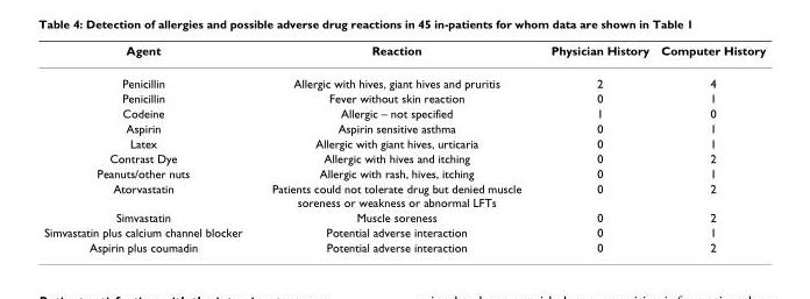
<table><thead><tr><td>Agent</td><td>Reaction</td><td>Physician History</td><td>Computer History</td></tr></thead><tbody><tr><td>Penicillin</td><td>Allergic with hives, giant hives and pruritis</td><td>2</td><td>4</td></tr><tr><td>Penicillin</td><td>Fever without skin reaction</td><td>0</td><td>1</td></tr><tr><td>Codeine</td><td>Allergic – not specified</td><td>1</td><td>0</td></tr><tr><td>Aspirin</td><td>Aspirin sensitive asthma</td><td>0</td><td>1</td></tr><tr><td>Latex</td><td>Allergic with giant hives, urticaria</td><td>0</td><td>1</td></tr><tr><td>Contrast Dye</td><td>Allergic with hives and itching</td><td>0</td><td>2</td></tr><tr><td>Peanuts/other nuts</td><td>Allergic with rash, hives, itching</td><td>0</td><td>1</td></tr><tr><td>Atorvastatin</td><td>Patients could not tolerate drug but denied muscle soreness or weakness or abnormal LFTs</td><td>0</td><td>2</td></tr><tr><td>Simvastatin</td><td>Muscle soreness</td><td>0</td><td>2</td></tr><tr><td>Simvastatin plus calcium channel blocker</td><td>Potential adverse interaction</td><td>0</td><td>1</td></tr><tr><td>Aspirin plus coumadin</td><td>Potential adverse interaction</td><td>0</td><td>2</td></tr></tbody></table>